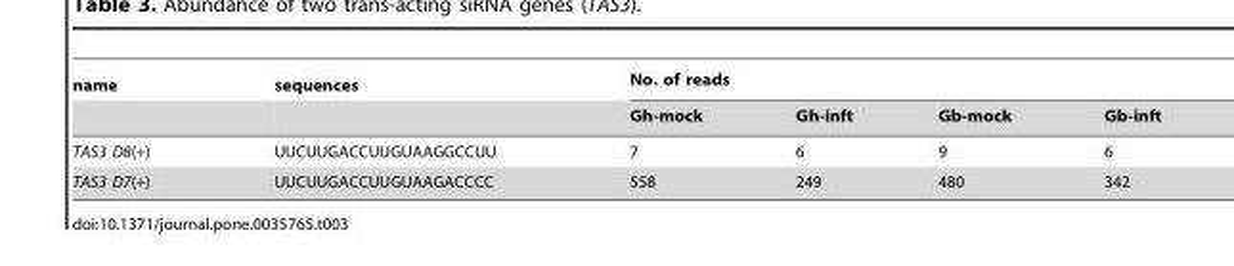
<table><thead><tr><td rowspan="2">name</td><td rowspan="2">sequences</td><td colspan="4">No. of reads</td></tr><tr><td>Gh-mock</td><td>Gh-inft</td><td>Gb-mock</td><td>Gb-inft</td></tr></thead><tbody><tr><td>TAS3 D8(+)</td><td>UUCUUGACCUUGUAAGGCCUU</td><td>7</td><td>6</td><td>9</td><td>6</td></tr><tr><td>TAS3 D7(+)</td><td>UUCUUGACCUUGUAAGACCCC</td><td>558</td><td>249</td><td>480</td><td>342</td></tr></tbody></table>